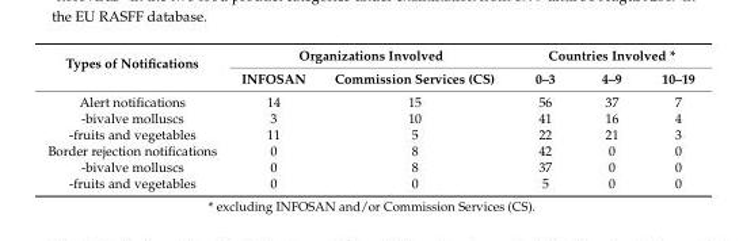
<table><thead><tr><td rowspan="2">Types of Notifications</td><td colspan="2">Organizations Involved</td><td colspan="3">Countries Involved *</td></tr><tr><td>INFOSAN</td><td>Commission Services (CS)</td><td>0–3</td><td>4–9</td><td>10–19</td></tr></thead><tbody><tr><td>Alert notifications</td><td>14</td><td>15</td><td>56</td><td>37</td><td>7</td></tr><tr><td>-bivalve molluscs</td><td>3</td><td>10</td><td>41</td><td>16</td><td>4</td></tr><tr><td>-fruits and vegetables</td><td>11</td><td>5</td><td>22</td><td>21</td><td>3</td></tr><tr><td>Border rejection notifications</td><td>0</td><td>8</td><td>42</td><td>0</td><td>0</td></tr><tr><td>-bivalve molluscs</td><td>0</td><td>8</td><td>37</td><td>0</td><td>0</td></tr><tr><td>-fruits and vegetables</td><td>0</td><td>0</td><td>5</td><td>0</td><td>0</td></tr></tbody></table>